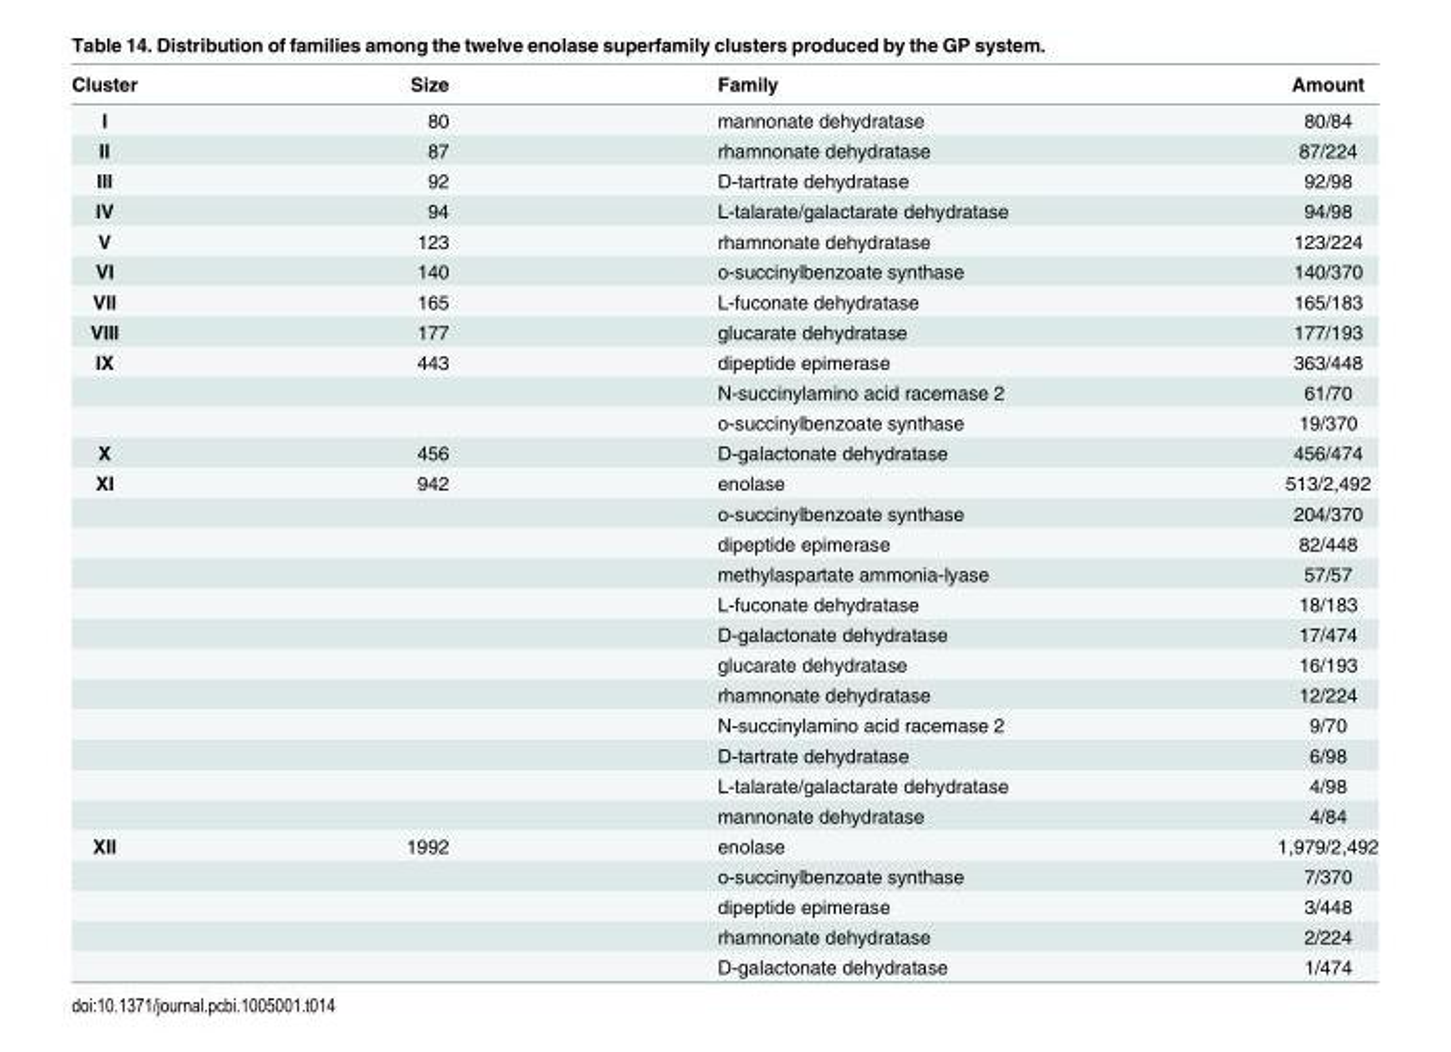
<table><thead><tr><td>Cluster</td><td>Size</td><td>Family</td><td>Amount</td></tr></thead><tbody><tr><td>I</td><td>80</td><td>mannonate dehydratase</td><td>80/84</td></tr><tr><td>II</td><td>87</td><td>rhamnonate dehydratase</td><td>87/224</td></tr><tr><td>III</td><td>92</td><td>D-tartrate dehydratase</td><td>92/98</td></tr><tr><td>IV</td><td>94</td><td>L-talarate/galactarate dehydratase</td><td>94/98</td></tr><tr><td>V</td><td>123</td><td>rhamnonate dehydratase</td><td>123/224</td></tr><tr><td>VI</td><td>140</td><td>o-succinylbenzoate synthase</td><td>140/370</td></tr><tr><td>VII</td><td>165</td><td>L-fuconate dehydratase</td><td>165/183</td></tr><tr><td>VIII</td><td>177</td><td>glucarate dehydratase</td><td>177/193</td></tr><tr><td rowspan="3">IX</td><td>443</td><td>dipeptide epimerase</td><td>363/448</td></tr><tr><td></td><td>N-succinylamino acid racemase 2</td><td>61/70</td></tr><tr><td></td><td>o-succinylbenzoate synthase</td><td>19/370</td></tr><tr><td>X</td><td>456</td><td>D-galactonate dehydratase</td><td>456/474</td></tr><tr><td rowspan="12">XI</td><td>942</td><td>enolase</td><td>513/2,492</td></tr><tr><td></td><td>o-succinylbenzoate synthase</td><td>204/370</td></tr><tr><td></td><td>dipeptide epimerase</td><td>82/448</td></tr><tr><td></td><td>methylaspartate ammonia-lyase</td><td>57/57</td></tr><tr><td></td><td>L-fuconate dehydratase</td><td>18/183</td></tr><tr><td></td><td>D-galactonate dehydratase</td><td>17/474</td></tr><tr><td></td><td>glucarate dehydratase</td><td>16/193</td></tr><tr><td></td><td>rhamnonate dehydratase</td><td>12/224</td></tr><tr><td></td><td>N-succinylamino acid racemase 2</td><td>9/70</td></tr><tr><td></td><td>D-tartrate dehydratase</td><td>6/98</td></tr><tr><td></td><td>L-talarate/galactarate dehydratase</td><td>4/98</td></tr><tr><td></td><td>mannonate dehydratase</td><td>4/84</td></tr><tr><td rowspan="5">XII</td><td>1992</td><td>enolase</td><td>1,979/2,492</td></tr><tr><td></td><td>o-succinylbenzoate synthase</td><td>7/370</td></tr><tr><td></td><td>dipeptide epimerase</td><td>3/448</td></tr><tr><td></td><td>rhamnonate dehydratase</td><td>2/224</td></tr><tr><td></td><td>D-galactonate dehydratase</td><td>1/474</td></tr></tbody></table>